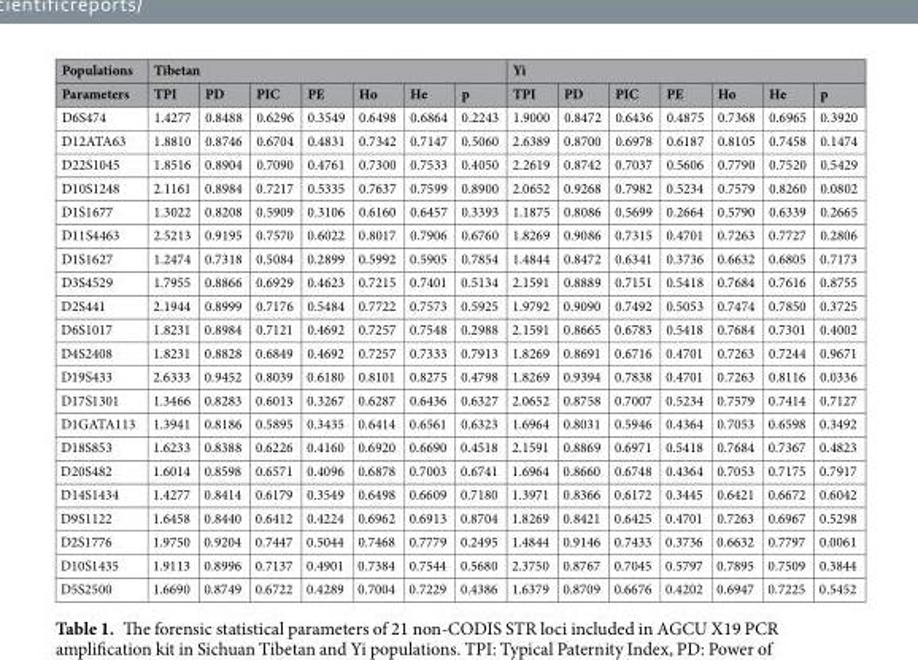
<table><thead><tr><td rowspan="2">Populations Parameters</td><td colspan="7">Tibetan</td><td colspan="7">Yi</td></tr><tr><td>TPI</td><td>PD</td><td>PIC</td><td>PE</td><td>Ho</td><td>He</td><td>p</td><td>TPI</td><td>PD</td><td>PIC</td><td>PE</td><td>Ho</td><td>He</td><td>p</td></tr></thead><tbody><tr><td>D6S474</td><td>1.4277</td><td>0.8488</td><td>0.6296</td><td>0.3549</td><td>0.6498</td><td>0.6864</td><td>0.2243</td><td>1.9000</td><td>0.8472</td><td>0.6436</td><td>0.4875</td><td>0.7368</td><td>0.6965</td><td>0.3920</td></tr><tr><td>D12ATA63</td><td>1.8810</td><td>0.8746</td><td>0.6704</td><td>0.4831</td><td>0.7342</td><td>0.7147</td><td>0.5060</td><td>2.6389</td><td>0.8700</td><td>0.6978</td><td>0.6187</td><td>0.8105</td><td>0.7458</td><td>0.1474</td></tr><tr><td>D22S1045</td><td>1.8516</td><td>0.8904</td><td>0.7090</td><td>0.4761</td><td>0.7300</td><td>0.7533</td><td>0.4050</td><td>2.2619</td><td>0.8742</td><td>0.7037</td><td>0.5606</td><td>0.7790</td><td>0.7520</td><td>0.5429</td></tr><tr><td>D10S1248</td><td>2.1161</td><td>0.8984</td><td>0.7217</td><td>0.5335</td><td>0.7637</td><td>0.7599</td><td>0.8900</td><td>2.0652</td><td>0.9268</td><td>0.7982</td><td>0.5234</td><td>0.7579</td><td>0.8260</td><td>0.0802</td></tr><tr><td>D1S1677</td><td>1.3022</td><td>0.8208</td><td>0.5909</td><td>0.3106</td><td>0.6160</td><td>0.6457</td><td>0.3393</td><td>1.1875</td><td>0.8086</td><td>0.5699</td><td>0.2664</td><td>0.5790</td><td>0.6339</td><td>0.2665</td></tr><tr><td>D11S4463</td><td>2.5213</td><td>0.9195</td><td>0.7570</td><td>0.6022</td><td>0.8017</td><td>0.7906</td><td>0.6760</td><td>1.8269</td><td>0.9086</td><td>0.7315</td><td>0.4701</td><td>0.7263</td><td>0.7727</td><td>0.2806</td></tr><tr><td>D1S1627</td><td>1.2474</td><td>0.7318</td><td>0.5084</td><td>0.2899</td><td>0.5992</td><td>0.5905</td><td>0.7854</td><td>1.4844</td><td>0.8472</td><td>0.6341</td><td>0.3736</td><td>0.6632</td><td>0.6805</td><td>0.7173</td></tr><tr><td>D3S4529</td><td>1.7955</td><td>0.8866</td><td>0.6929</td><td>0.4623</td><td>0.7215</td><td>0.7401</td><td>0.5134</td><td>2.1591</td><td>0.8889</td><td>0.7151</td><td>0.5418</td><td>0.7684</td><td>0.7616</td><td>0.8755</td></tr><tr><td>D2S441</td><td>2.1944</td><td>0.8999</td><td>0.7176</td><td>0.5484</td><td>0.7722</td><td>0.7573</td><td>0.5925</td><td>1.9792</td><td>0.9090</td><td>0.7492</td><td>0.5053</td><td>0.7474</td><td>0.7850</td><td>0.3725</td></tr><tr><td>D6S1017</td><td>1.8231</td><td>0.8984</td><td>0.7121</td><td>0.4692</td><td>0.7257</td><td>0.7548</td><td>0.2988</td><td>2.1591</td><td>0.8665</td><td>0.6783</td><td>0.5418</td><td>0.7684</td><td>0.7301</td><td>0.4002</td></tr><tr><td>D4S2408</td><td>1.8231</td><td>0.8828</td><td>0.6849</td><td>0.4692</td><td>0.7257</td><td>0.7333</td><td>0.7913</td><td>1.8269</td><td>0.8691</td><td>0.6716</td><td>0.4701</td><td>0.7263</td><td>0.7244</td><td>0.9671</td></tr><tr><td>D19S433</td><td>2.6333</td><td>0.9452</td><td>0.8039</td><td>0.6180</td><td>0.8101</td><td>0.8275</td><td>0.4798</td><td>1.8269</td><td>0.9394</td><td>0.7838</td><td>0.4701</td><td>0.7263</td><td>0.8116</td><td>0.0336</td></tr><tr><td>D17S1301</td><td>1.3466</td><td>0.8283</td><td>0.6013</td><td>0.3267</td><td>0.6287</td><td>0.6436</td><td>0.6327</td><td>2.0652</td><td>0.8758</td><td>0.7007</td><td>0.5234</td><td>0.7579</td><td>0.7414</td><td>0.7127</td></tr><tr><td>D1GATA113</td><td>1.3941</td><td>0.8186</td><td>0.5895</td><td>0.3435</td><td>0.6414</td><td>0.6561</td><td>0.6323</td><td>1.6964</td><td>0.8031</td><td>0.5946</td><td>0.4364</td><td>0.7053</td><td>0.6598</td><td>0.3492</td></tr><tr><td>D18S853</td><td>1.6233</td><td>0.8388</td><td>0.6226</td><td>0.4160</td><td>0.6920</td><td>0.6690</td><td>0.4518</td><td>2.1591</td><td>0.8869</td><td>0.6971</td><td>0.5418</td><td>0.7684</td><td>0.7367</td><td>0.4823</td></tr><tr><td>D20S482</td><td>1.6014</td><td>0.8598</td><td>0.6571</td><td>0.4096</td><td>0.6878</td><td>0.7003</td><td>0.6741</td><td>1.6964</td><td>0.8660</td><td>0.6748</td><td>0.4364</td><td>0.7053</td><td>0.7175</td><td>0.7917</td></tr><tr><td>D14S1434</td><td>1.4277</td><td>0.8414</td><td>0.6179</td><td>0.3549</td><td>0.6498</td><td>0.6609</td><td>0.7180</td><td>1.3971</td><td>0.8366</td><td>0.6172</td><td>0.3445</td><td>0.6421</td><td>0.6672</td><td>0.6042</td></tr><tr><td>D9S1122</td><td>1.6458</td><td>0.8440</td><td>0.6412</td><td>0.4224</td><td>0.6962</td><td>0.6913</td><td>0.8704</td><td>1.8269</td><td>0.8421</td><td>0.6425</td><td>0.4701</td><td>0.7263</td><td>0.6967</td><td>0.5298</td></tr><tr><td>D2S1776</td><td>1.9750</td><td>0.9204</td><td>0.7447</td><td>0.5044</td><td>0.7468</td><td>0.7779</td><td>0.2495</td><td>1.4844</td><td>0.9146</td><td>0.7433</td><td>0.3736</td><td>0.6632</td><td>0.7797</td><td>0.0061</td></tr><tr><td>D10S1435</td><td>1.9113</td><td>0.8996</td><td>0.7137</td><td>0.4901</td><td>0.7384</td><td>0.7544</td><td>0.5680</td><td>2.3750</td><td>0.8767</td><td>0.7045</td><td>0.5797</td><td>0.7895</td><td>0.7509</td><td>0.3844</td></tr><tr><td>D5S2500</td><td>1.6690</td><td>0.8749</td><td>0.6722</td><td>0.4289</td><td>0.7004</td><td>0.7229</td><td>0.4386</td><td>1.6379</td><td>0.8709</td><td>0.6676</td><td>0.4202</td><td>0.6947</td><td>0.7225</td><td>0.5452</td></tr></tbody></table>